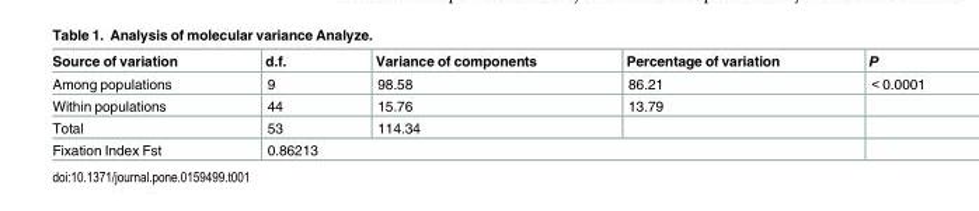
<table><thead><tr><td>Source of variation</td><td>d.f.</td><td>Variance of components</td><td>Percentage of variation</td><td>P</td></tr></thead><tbody><tr><td>Among populations</td><td>9</td><td>98.58</td><td>86.21</td><td>&lt; 0.0001</td></tr><tr><td>Within populations</td><td>44</td><td>15.76</td><td>13.79</td><td></td></tr><tr><td>Total</td><td>53</td><td>114.34</td><td></td><td></td></tr><tr><td>Fixation Index Fst</td><td colspan="3">0.86213</td><td></td></tr></tbody></table>